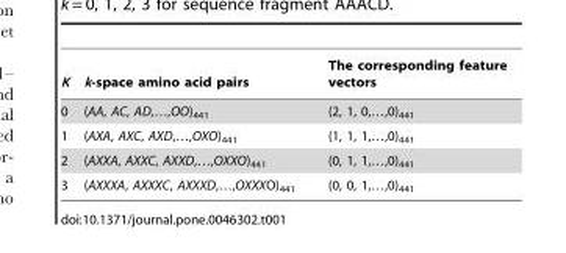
<table><thead><tr><td>K</td><td>k-space amino acid pairs</td><td>The corresponding feature vectors</td></tr></thead><tbody><tr><td>0</td><td>(AA, AC, AD,…,OO)<sub>441</sub></td><td>(2, 1, 0,…,0)<sub>441</sub></td></tr><tr><td>1</td><td>(AXA, AXC, AXD,…,OXO)<sub>441</sub></td><td>(1, 1, 1,…,0)<sub>441</sub></td></tr><tr><td>2</td><td>(AXXA, AXXC, AXXD,…,OXXO)<sub>441</sub></td><td>(0, 1, 1,…,0)<sub>441</sub></td></tr><tr><td>3</td><td>(AXXXA, AXXXC, AXXXD,…,OXXXO)<sub>441</sub></td><td>(0, 0, 1,…,0)<sub>441</sub></td></tr></tbody></table>